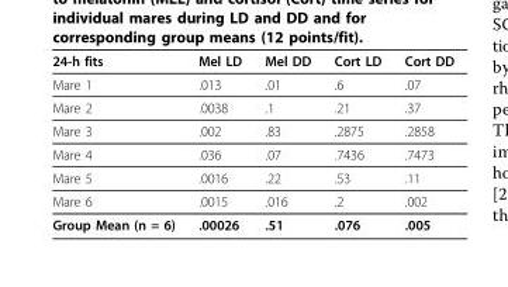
<table><thead><tr><td>24-h fits</td><td>Mel LD</td><td>Mel DD</td><td>Cort LD</td><td>Cort DD</td></tr></thead><tbody><tr><td>Mare 1</td><td>.013</td><td>.01</td><td>.6</td><td>.07</td></tr><tr><td>Mare 2</td><td>.0038</td><td>.1</td><td>.21</td><td>.37</td></tr><tr><td>Mare 3</td><td>.002</td><td>.83</td><td>.2875</td><td>.2858</td></tr><tr><td>Mare 4</td><td>.036</td><td>.07</td><td>.7436</td><td>.7473</td></tr><tr><td>Mare 5</td><td>.0016</td><td>.22</td><td>.53</td><td>.11</td></tr><tr><td>Mare 6</td><td>.0015</td><td>.016</td><td>.2</td><td>.002</td></tr><tr><td>Group Mean (n = 6)</td><td>.00026</td><td>.51</td><td>.076</td><td>.005</td></tr></tbody></table>